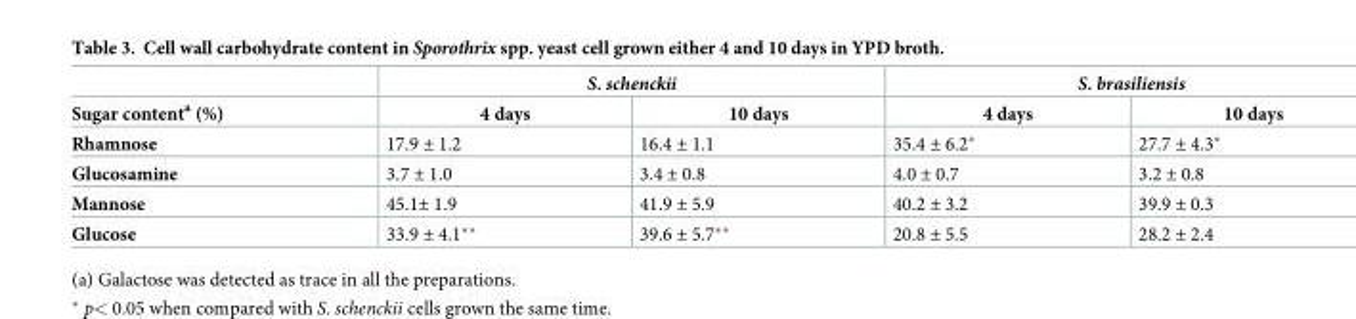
<table><thead><tr><td rowspan="2">Sugar content<sup>a</sup> (%)</td><td colspan="2">S. schenckii</td><td colspan="2">S. brasiliensis</td></tr><tr><td>4 days</td><td>10 days</td><td>4 days</td><td>10 days</td></tr></thead><tbody><tr><td>Rhamnose</td><td>17.9 ± 1.2</td><td>16.4 ± 1.1</td><td>35.4 ± 6.2*</td><td>27.7 ± 4.3*</td></tr><tr><td>Glucosamine</td><td>3.7 ± 1.0</td><td>3.4 ± 0.8</td><td>4.0 ± 0.7</td><td>3.2 ± 0.8</td></tr><tr><td>Mannose</td><td>45.1± 1.9</td><td>41.9 ± 5.9</td><td>40.2 ± 3.2</td><td>39.9 ± 0.3</td></tr><tr><td>Glucose</td><td>33.9 ± 4.1**</td><td>39.6 ± 5.7**</td><td>20.8 ± 5.5</td><td>28.2 ± 2.4</td></tr></tbody></table>